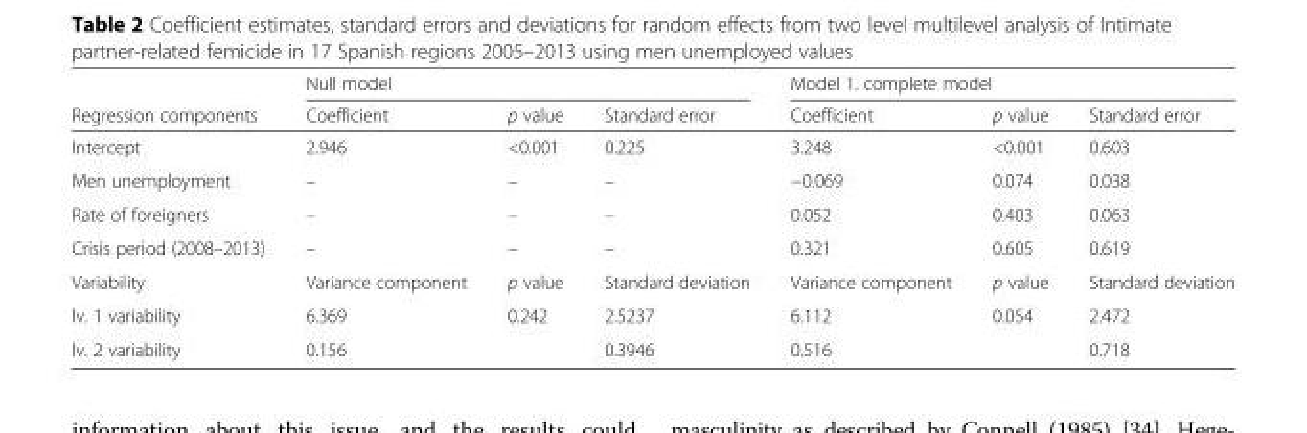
<table><thead><tr><td rowspan="2">Regression components</td><td colspan="3">Null model</td><td colspan="3">Model 1. complete model</td></tr><tr><td>Coefficient</td><td>p value</td><td>Standard error</td><td>Coefficient</td><td>p value</td><td>Standard error</td></tr></thead><tbody><tr><td>Intercept</td><td>2.946</td><td>&lt;0.001</td><td>0.225</td><td>3.248</td><td>&lt;0.001</td><td>0.603</td></tr><tr><td>Men unemployment</td><td>–</td><td>–</td><td>–</td><td>−0.069</td><td>0.074</td><td>0.038</td></tr><tr><td>Rate of foreigners</td><td>–</td><td>–</td><td>–</td><td>0.052</td><td>0.403</td><td>0.063</td></tr><tr><td>Crisis period (2008–2013)</td><td>–</td><td>–</td><td>–</td><td>0.321</td><td>0.605</td><td>0.619</td></tr><tr><td>Variability</td><td>Variance component</td><td>p value</td><td>Standard deviation</td><td>Variance component</td><td>p value</td><td>Standard deviation</td></tr><tr><td>lv. 1 variability</td><td>6.369</td><td rowspan="2">0.242</td><td>2.5237</td><td>6.112</td><td rowspan="2">0.054</td><td>2.472</td></tr><tr><td>lv. 2 variability</td><td>0.156</td><td>0.3946</td><td>0.516</td><td>0.718</td></tr></tbody></table>